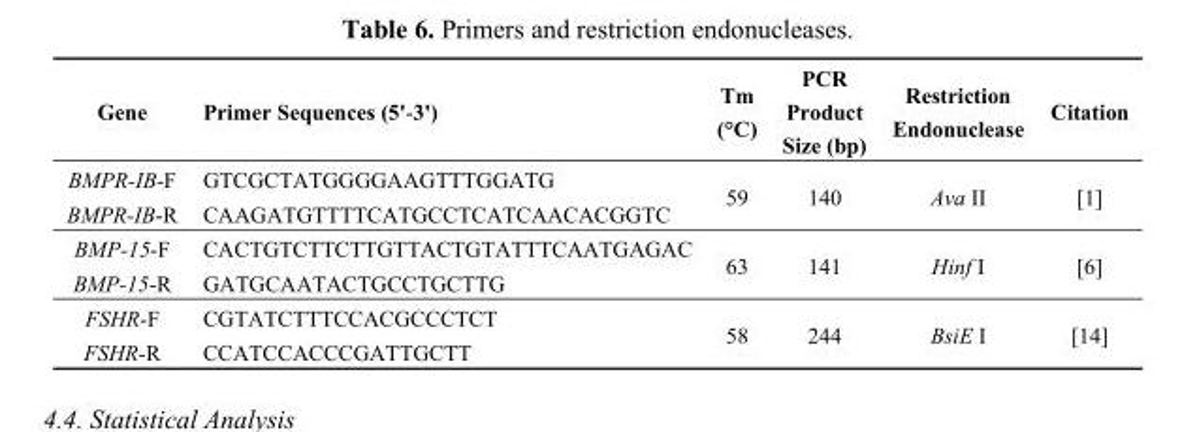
<table><thead><tr><td>Gene</td><td>Primer Sequences (5&#x27;-3&#x27;)</td><td>Tm (°C)</td><td>PCR Product Size (bp)</td><td>Restriction Endonuclease</td><td>Citation</td></tr></thead><tbody><tr><td>BMPR-IB-F</td><td>GTCGCTATGGGGAAGTTTGGATG</td><td rowspan="2">59</td><td rowspan="2">140</td><td rowspan="2">Ava II</td><td rowspan="2">[1]</td></tr><tr><td>BMPR-IB-R</td><td>CAAGATGTTTTCATGCCTCATCAACACGGTC</td></tr><tr><td>BMP-15-F</td><td>CACTGTCTTCTTGTTACTGTATTTCAATGAGAC</td><td rowspan="2">63</td><td rowspan="2">141</td><td rowspan="2">Hinf I</td><td rowspan="2">[6]</td></tr><tr><td>BMP-15-R</td><td>GATGCAATACTGCCTGCTTG</td></tr><tr><td>FSHR-F</td><td>CGTATCTTTCCACGCCCTCT</td><td rowspan="2">58</td><td rowspan="2">244</td><td rowspan="2">BsiE I</td><td rowspan="2">[14]</td></tr><tr><td>FSHR-R</td><td>CCATCCACCCGATTGCTT</td></tr></tbody></table>